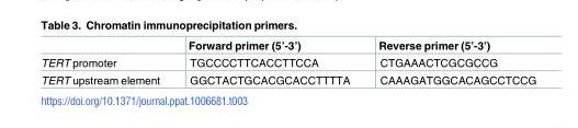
<table><thead><tr><td></td><td>Forward primer (5’-3’)</td><td>Reverse primer (5’-3’)</td></tr></thead><tbody><tr><td>TERT promoter</td><td>TGCCCCTTCACCTTCCA</td><td>CTGAAACTCGCGCCG</td></tr><tr><td>TERT upstream element</td><td>GGCTACTGCACGCACCTTTTA</td><td>CAAAGATGGCACAGCCTCCG</td></tr></tbody></table>